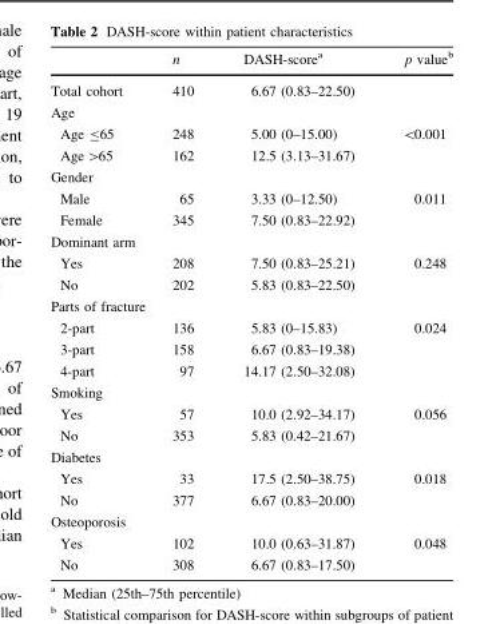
<table><thead><tr><td></td><td>n</td><td>DASH-score<sup>a</sup></td><td>p value<sup>b</sup></td></tr></thead><tbody><tr><td>Total cohort</td><td>410</td><td>6.67 (0.83–22.50)</td><td></td></tr><tr><td colspan="4">Age</td></tr><tr><td>Age ≤65</td><td>248</td><td>5.00 (0–15.00)</td><td rowspan="2">&lt;0.001</td></tr><tr><td>Age &gt;65</td><td>162</td><td>12.5 (3.13–31.67)</td></tr><tr><td colspan="4">Gender</td></tr><tr><td>Male</td><td>65</td><td>3.33 (0–12.50)</td><td rowspan="2">0.011</td></tr><tr><td>Female</td><td>345</td><td>7.50 (0.83–22.92)</td></tr><tr><td colspan="4">Dominant arm</td></tr><tr><td>Yes</td><td>208</td><td>7.50 (0.83–25.21)</td><td rowspan="2">0.248</td></tr><tr><td>No</td><td>202</td><td>5.83 (0.83–22.50)</td></tr><tr><td colspan="4">Parts of fracture</td></tr><tr><td>2-part</td><td>136</td><td>5.83 (0–15.83)</td><td rowspan="3">0.024</td></tr><tr><td>3-part</td><td>158</td><td>6.67 (0.83–19.38)</td></tr><tr><td>4-part</td><td>97</td><td>14.17 (2.50–32.08)</td></tr><tr><td colspan="4">Smoking</td></tr><tr><td>Yes</td><td>57</td><td>10.0 (2.92–34.17)</td><td rowspan="2">0.056</td></tr><tr><td>No</td><td>353</td><td>5.83 (0.42–21.67)</td></tr><tr><td colspan="4">Diabetes</td></tr><tr><td>Yes</td><td>33</td><td>17.5 (2.50–38.75)</td><td rowspan="2">0.018</td></tr><tr><td>No</td><td>377</td><td>6.67 (0.83–20.00)</td></tr><tr><td colspan="4">Osteoporosis</td></tr><tr><td>Yes</td><td>102</td><td>10.0 (0.63–31.87)</td><td rowspan="2">0.048</td></tr><tr><td>No</td><td>308</td><td>6.67 (0.83–17.50)</td></tr></tbody></table>